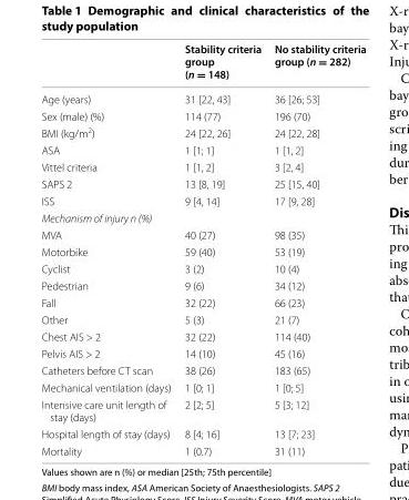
<table><thead><tr><td></td><td>Stability criteria group (n = 148)</td><td>No stability criteria group (n = 282)</td></tr></thead><tbody><tr><td>Age (years)</td><td>31 [22, 43]</td><td>36 [26; 53]</td></tr><tr><td>Sex (male) (%)</td><td>114 (77)</td><td>196 (70)</td></tr><tr><td>BMI (kg/m<sup>2</sup>)</td><td>24 [22, 26]</td><td>24 [22, 28]</td></tr><tr><td>ASA</td><td>1 [1; 1]</td><td>1 [1, 2]</td></tr><tr><td>Vittel criteria</td><td>1 [1, 2]</td><td>3 [2, 4]</td></tr><tr><td>SAPS 2</td><td>13 [8, 19]</td><td>25 [15, 40]</td></tr><tr><td>ISS</td><td>9 [4, 14]</td><td>17 [9, 28]</td></tr><tr><td colspan="3">Mechanism of injury n (%)</td></tr><tr><td>MVA</td><td>40 (27)</td><td>98 (35)</td></tr><tr><td>Motorbike</td><td>59 (40)</td><td>53 (19)</td></tr><tr><td>Cyclist</td><td>3 (2)</td><td>10 (4)</td></tr><tr><td>Pedestrian</td><td>9 (6)</td><td>34 (12)</td></tr><tr><td>Fall</td><td>32 (22)</td><td>66 (23)</td></tr><tr><td>Other</td><td>5 (3)</td><td>21 (7)</td></tr><tr><td>Chest AIS &gt; 2</td><td>32 (22)</td><td>114 (40)</td></tr><tr><td>Pelvis AIS &gt; 2</td><td>14 (10)</td><td>45 (16)</td></tr><tr><td>Catheters before CT scan</td><td>38 (26)</td><td>183 (65)</td></tr><tr><td>Mechanical ventilation (days)</td><td>1 [0; 1]</td><td>1 [0; 5]</td></tr><tr><td>Intensive care unit length of stay (days)</td><td>2 [2; 5]</td><td>5 [3; 12]</td></tr><tr><td>Hospital length of stay (days)</td><td>8 [4; 16]</td><td>13 [7; 23]</td></tr><tr><td>Mortality</td><td>1 (0.7)</td><td>31 (11)</td></tr></tbody></table>